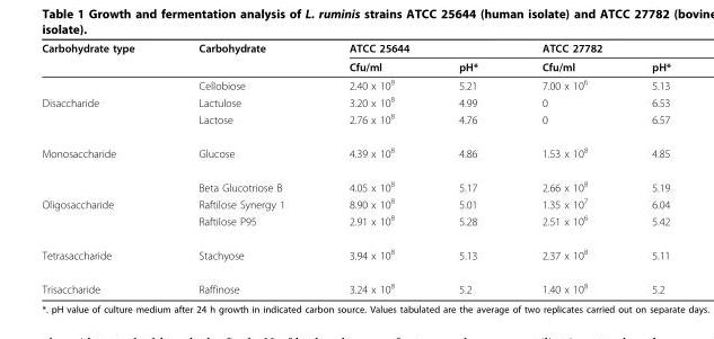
<table><thead><tr><td rowspan="2">Carbohydrate type</td><td rowspan="2">Carbohydrate</td><td colspan="2">ATCC 25644</td><td colspan="2">ATCC 27782</td></tr><tr><td>Cfu/ml</td><td>pH*</td><td>Cfu/ml</td><td>pH*</td></tr></thead><tbody><tr><td></td><td>Cellobiose</td><td>2.40 x 10<sup>8</sup></td><td>5.21</td><td>7.00 x 10<sup>6</sup></td><td>5.13</td></tr><tr><td rowspan="2">Disaccharide</td><td>Lactulose</td><td>3.20 x 10<sup>8</sup></td><td>4.99</td><td>0</td><td>6.53</td></tr><tr><td>Lactose</td><td>2.76 x 10<sup>8</sup></td><td>4.76</td><td>0</td><td>6.57</td></tr><tr><td rowspan="2">Monosaccharide</td><td>Glucose</td><td>4.39 x 10<sup>8</sup></td><td>4.86</td><td>1.53 x 10<sup>8</sup></td><td>4.85</td></tr><tr><td>Beta Glucotriose B</td><td>4.05 x 10<sup>8</sup></td><td>5.17</td><td>2.66 x 10<sup>8</sup></td><td>5.19</td></tr><tr><td rowspan="2">Oligosaccharide</td><td>Raftilose Synergy 1</td><td>8.90 x 10<sup>8</sup></td><td>5.01</td><td>1.35 x 10<sup>7</sup></td><td>6.04</td></tr><tr><td>Raftilose P95</td><td>2.91 x 10<sup>8</sup></td><td>5.28</td><td>2.51 x 10<sup>6</sup></td><td>5.42</td></tr><tr><td>Tetrasaccharide</td><td>Stachyose</td><td>3.94 x 10<sup>8</sup></td><td>5.13</td><td>2.37 x 10<sup>8</sup></td><td>5.11</td></tr><tr><td>Trisaccharide</td><td>Raffinose</td><td>3.24 x 10<sup>8</sup></td><td>5.2</td><td>1.40 x 10<sup>8</sup></td><td>5.2</td></tr></tbody></table>